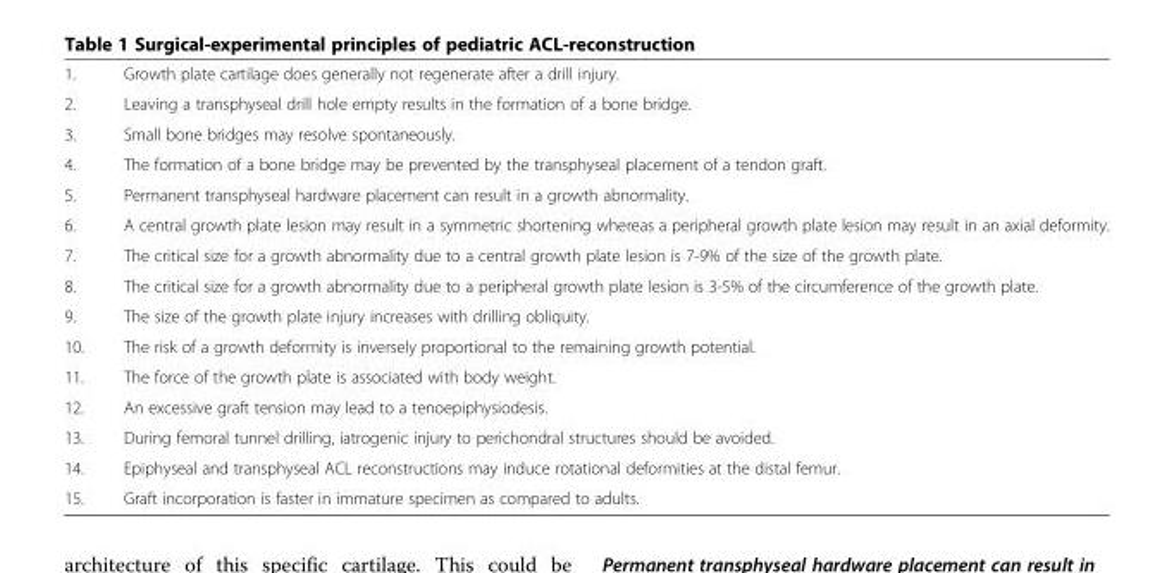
<table><tbody><tr><td>1.</td><td>Growth plate cartilage does generally not regenerate after a drill injury.</td></tr><tr><td>2.</td><td>Leaving a transphyseal drill hole empty results in the formation of a bone bridge.</td></tr><tr><td>3.</td><td>Small bone bridges may resolve spontaneously.</td></tr><tr><td>4.</td><td>The formation of a bone bridge may be prevented by the transphyseal placement of a tendon graft.</td></tr><tr><td>5.</td><td>Permanent transphyseal hardware placement can result in a growth abnormality.</td></tr><tr><td>6.</td><td>A central growth plate lesion may result in a symmetric shortening whereas a peripheral growth plate lesion may result in an axial deformity.</td></tr><tr><td>7.</td><td>The critical size for a growth abnormality due to a central growth plate lesion is 7-9% of the size of the growth plate.</td></tr><tr><td>8.</td><td>The critical size for a growth abnormality due to a peripheral growth plate lesion is 3-5% of the circumference of the growth plate.</td></tr><tr><td>9.</td><td>The size of the growth plate injury increases with drilling obliquity.</td></tr><tr><td>10.</td><td>The risk of a growth deformity is inversely proportional to the remaining growth potential.</td></tr><tr><td>11.</td><td>The force of the growth plate is associated with body weight.</td></tr><tr><td>12.</td><td>An excessive graft tension may lead to a tenoepiphysiodesis.</td></tr><tr><td>13.</td><td>During femoral tunnel drilling, iatrogenic injury to perichondral structures should be avoided.</td></tr><tr><td>14.</td><td>Epiphyseal and transphyseal ACL reconstructions may induce rotational deformities at the distal femur.</td></tr><tr><td>15.</td><td>Graft incorporation is faster in immature specimen as compared to adults.</td></tr></tbody></table>